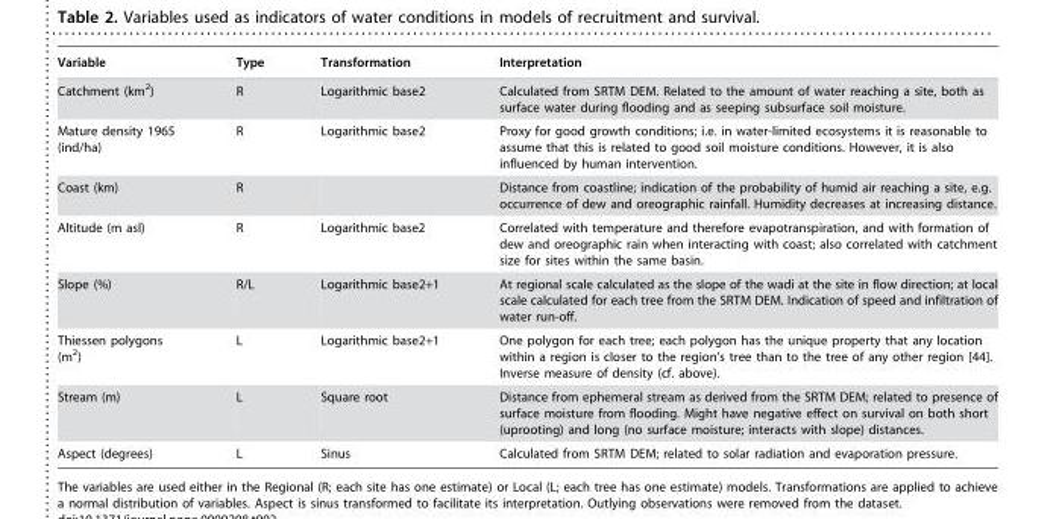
<table><thead><tr><td>Variable</td><td>Type</td><td>Transformation</td><td>Interpretation</td></tr></thead><tbody><tr><td>Catchment (km<sup>2</sup>)</td><td>R</td><td>Logarithmic base2</td><td>Calculated from SRTM DEM. Related to the amount of water reaching a site, both as surface water during flooding and as seeping subsurface soil moisture.</td></tr><tr><td>Mature density 1965 (ind/ha)</td><td>R</td><td>Logarithmic base2</td><td>Proxy for good growth conditions; i.e. in water-limited ecosystems it is reasonable to assume that this is related to good soil moisture conditions. However, it is also influenced by human intervention.</td></tr><tr><td>Coast (km)</td><td>R</td><td></td><td>Distance from coastline; indication of the probability of humid air reaching a site, e.g. occurrence of dew and oreographic rainfall. Humidity decreases at increasing distance.</td></tr><tr><td>Altitude (m asl)</td><td>R</td><td>Logarithmic base2</td><td>Correlated with temperature and therefore evapotranspiration, and with formation of dew and oreographic rain when interacting with coast; also correlated with catchment size for sites within the same basin.</td></tr><tr><td>Slope (%)</td><td>R/L</td><td>Logarithmic base2+1</td><td>At regional scale calculated as the slope of the wadi at the site in flow direction; at local scale calculated for each tree from the SRTM DEM. Indication of speed and infiltration of water run-off.</td></tr><tr><td>Thiessen polygons (m<sup>2</sup>)</td><td>L</td><td>Logarithmic base2+1</td><td>One polygon for each tree; each polygon has the unique property that any location within a region is closer to the region’s tree than to the tree of any other region [44]. Inverse measure of density (cf. above).</td></tr><tr><td>Stream (m)</td><td>L</td><td>Square root</td><td>Distance from ephemeral stream as derived from the SRTM DEM; related to presence of surface moisture from flooding. Might have negative effect on survival on both short (uprooting) and long (no surface moisture; interacts with slope) distances.</td></tr><tr><td>Aspect (degrees)</td><td>L</td><td>Sinus</td><td>Calculated from SRTM DEM; related to solar radiation and evaporation pressure.</td></tr></tbody></table>